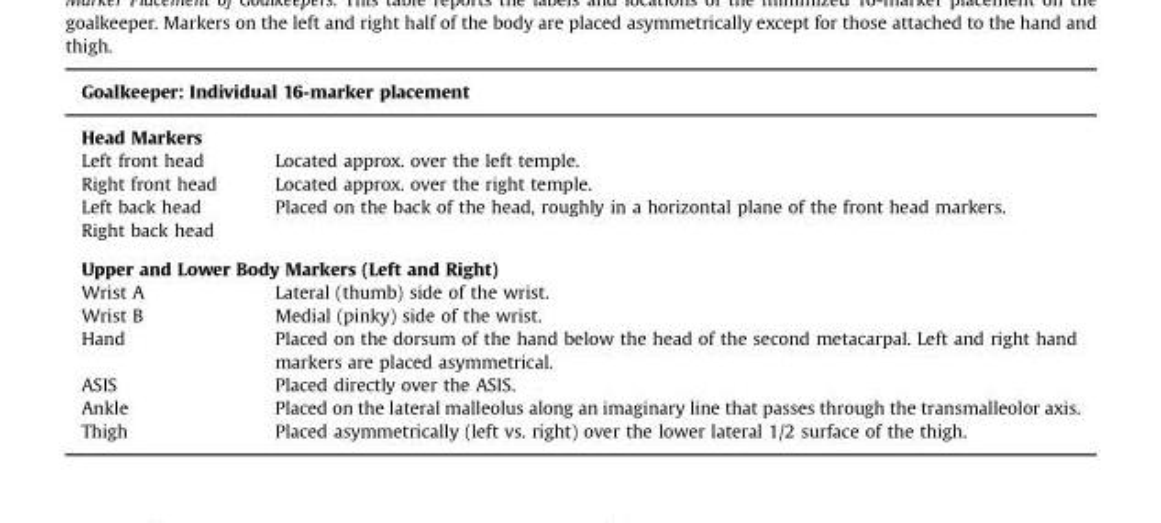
<table><thead><tr><td rowspan="2" colspan="2">Goalkeeper: Individual 16-marker placement Head Markers</td></tr><tr></tr><tr><td>Left front head</td><td>Located approx. over the left temple.</td></tr></thead><tbody><tr><td>Right front head</td><td>Located approx. over the right temple.</td></tr><tr><td>Left back head</td><td rowspan="2">Placed on the back of the head, roughly in a horizontal plane of the front head markers.</td></tr><tr><td>Right back head</td></tr><tr><td colspan="2">Upper and Lower Body Markers (Left and Right)</td></tr><tr><td>Wrist A</td><td>Lateral (thumb) side of the wrist.</td></tr><tr><td>Wrist B</td><td>Medial (pinky) side of the wrist.</td></tr><tr><td>Hand</td><td>Placed on the dorsum of the hand below the head of the second metacarpal. Left and right hand markers are placed asymmetrical.</td></tr><tr><td>ASIS</td><td>Placed directly over the ASIS.</td></tr><tr><td>Ankle</td><td>Placed on the lateral malleolus along an imaginary line that passes through the transmalleolor axis.</td></tr><tr><td>Thigh</td><td>Placed asymmetrically (left vs. right) over the lower lateral 1/2 surface of the thigh.</td></tr></tbody></table>